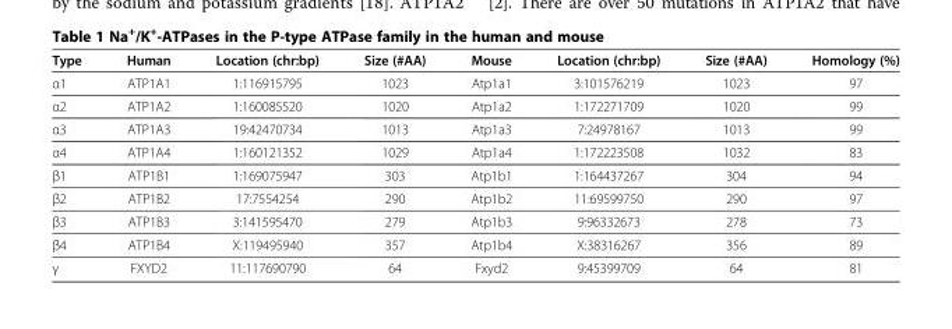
<table><thead><tr><td>Type</td><td>Human</td><td>Location (chr:bp)</td><td>Size (#AA)</td><td>Mouse</td><td>Location (chr:bp)</td><td>Size (#AA)</td><td>Homology (%)</td></tr></thead><tbody><tr><td>α1</td><td>ATP1A1</td><td>1:116915795</td><td>1023</td><td>Atp1a1</td><td>3:101576219</td><td>1023</td><td>97</td></tr><tr><td>α2</td><td>ATP1A2</td><td>1:160085520</td><td>1020</td><td>Atp1a2</td><td>1:172271709</td><td>1020</td><td>99</td></tr><tr><td>α3</td><td>ATP1A3</td><td>19:42470734</td><td>1013</td><td>Atp1a3</td><td>7:24978167</td><td>1013</td><td>99</td></tr><tr><td>α4</td><td>ATP1A4</td><td>1:160121352</td><td>1029</td><td>Atp1a4</td><td>1:172223508</td><td>1032</td><td>83</td></tr><tr><td>β1</td><td>ATP1B1</td><td>1:169075947</td><td>303</td><td>Atp1b1</td><td>1:164437267</td><td>304</td><td>94</td></tr><tr><td>β2</td><td>ATP1B2</td><td>17:7554254</td><td>290</td><td>Atp1b2</td><td>11:69599750</td><td>290</td><td>97</td></tr><tr><td>β3</td><td>ATP1B3</td><td>3:141595470</td><td>279</td><td>Atp1b3</td><td>9:96332673</td><td>278</td><td>73</td></tr><tr><td>β4</td><td>ATP1B4</td><td>X:119495940</td><td>357</td><td>Atp1b4</td><td>X:38316267</td><td>356</td><td>89</td></tr><tr><td>γ</td><td>FXYD2</td><td>11:117690790</td><td>64</td><td>Fxyd2</td><td>9:45399709</td><td>64</td><td>81</td></tr></tbody></table>